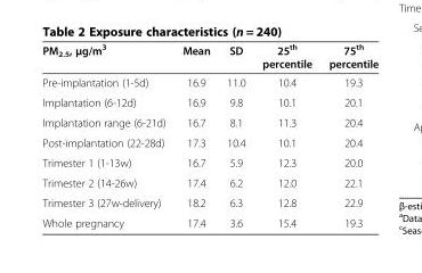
<table><thead><tr><td>PM<sub>2.5</sub>, μg/m<sup>3</sup></td><td>Mean</td><td>SD</td><td>25<sup>th</sup> percentile</td><td>75<sup>th</sup> percentile</td></tr></thead><tbody><tr><td>Pre-implantation (1-5d)</td><td>16.9</td><td>11.0</td><td>10.4</td><td>19.3</td></tr><tr><td>Implantation (6-12d)</td><td>16.9</td><td>9.8</td><td>10.1</td><td>20.1</td></tr><tr><td>Implantation range (6-21d)</td><td>16.7</td><td>8.1</td><td>11.3</td><td>20.4</td></tr><tr><td>Post-implantation (22-28d)</td><td>17.3</td><td>10.4</td><td>10.1</td><td>20.4</td></tr><tr><td>Trimester 1 (1-13w)</td><td>16.7</td><td>5.9</td><td>12.3</td><td>20.0</td></tr><tr><td>Trimester 2 (14-26w)</td><td>17.4</td><td>6.2</td><td>12.0</td><td>22.1</td></tr><tr><td>Trimester 3 (27w-delivery)</td><td>18.2</td><td>6.3</td><td>12.8</td><td>22.9</td></tr><tr><td>Whole pregnancy</td><td>17.4</td><td>3.6</td><td>15.4</td><td>19.3</td></tr></tbody></table>